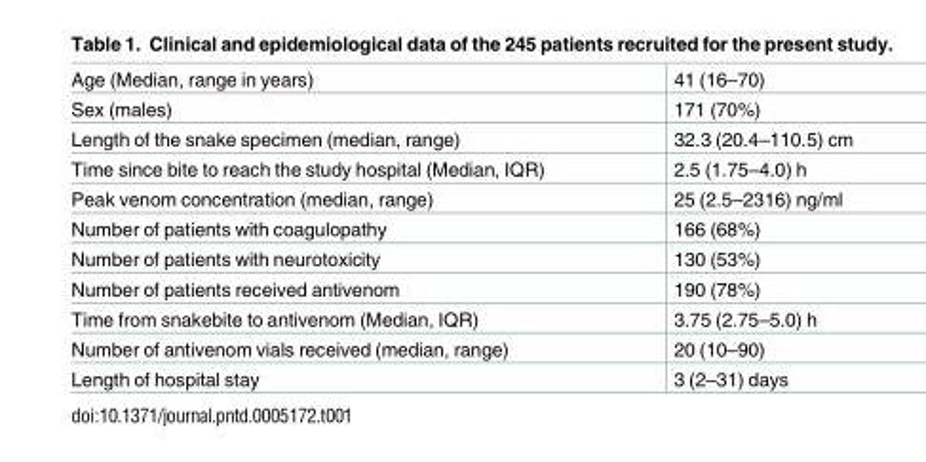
<table><tbody><tr><td>Age (Median, range in years)</td><td>41 (16–70)</td></tr><tr><td>Sex (males)</td><td>171 (70%)</td></tr><tr><td>Length of the snake specimen (median, range)</td><td>32.3 (20.4–110.5) cm</td></tr><tr><td>Time since bite to reach the study hospital (Median, IQR)</td><td>2.5 (1.75–4.0) h</td></tr><tr><td>Peak venom concentration (median, range)</td><td>25 (2.5–2316) ng/ml</td></tr><tr><td>Number of patients with coagulopathy</td><td>166 (68%)</td></tr><tr><td>Number of patients with neurotoxicity</td><td>130 (53%)</td></tr><tr><td>Number of patients received antivenom</td><td>190 (78%)</td></tr><tr><td>Time from snakebite to antivenom (Median, IQR)</td><td>3.75 (2.75–5.0) h</td></tr><tr><td>Number of antivenom vials received (median, range)</td><td>20 (10–90)</td></tr><tr><td>Length of hospital stay</td><td>3 (2–31) days</td></tr></tbody></table>